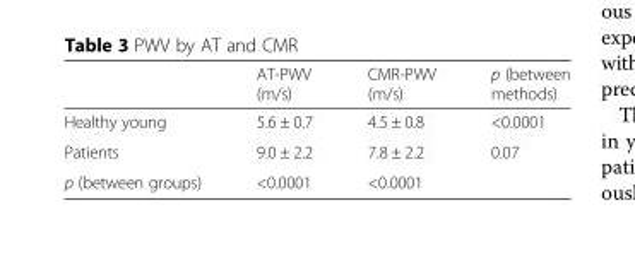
<table><thead><tr><td></td><td>AT-PWV (m/s)</td><td>CMR-PWV (m/s)</td><td>p (between methods)</td></tr></thead><tbody><tr><td>Healthy young</td><td>5.6 ± 0.7</td><td>4.5 ± 0.8</td><td>&lt;0.0001</td></tr><tr><td>Patients</td><td>9.0 ± 2.2</td><td>7.8 ± 2.2</td><td>0.07</td></tr><tr><td>p (between groups)</td><td>&lt;0.0001</td><td>&lt;0.0001</td><td></td></tr></tbody></table>